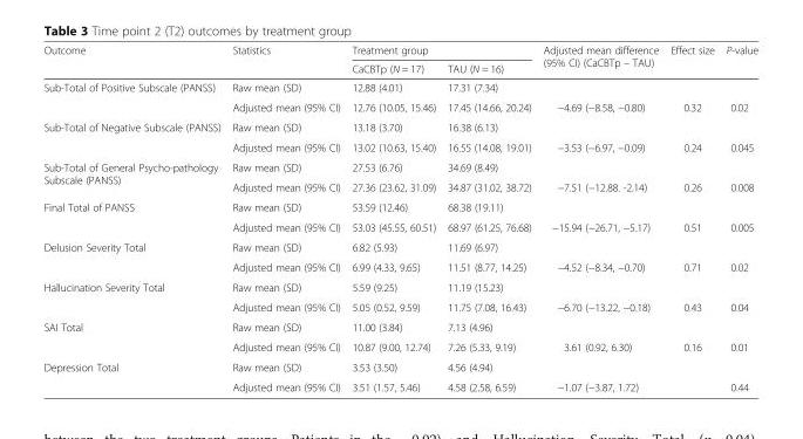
<table><thead><tr><td rowspan="2">Outcome</td><td rowspan="2">Statistics</td><td colspan="2">Treatment group</td><td rowspan="2">Adjusted mean difference (95% CI) (CaCBTp – TAU)</td><td rowspan="2">Effect size</td><td rowspan="2">P-value</td></tr><tr><td>CaCBTp (N = 17)</td><td>TAU (N = 16)</td></tr></thead><tbody><tr><td rowspan="2">Sub-Total of Positive Subscale (PANSS)</td><td>Raw mean (SD)</td><td>12.88 (4.01)</td><td>17.31 (7.34)</td><td></td><td></td><td></td></tr><tr><td>Adjusted mean (95% CI)</td><td>12.76 (10.05, 15.46)</td><td>17.45 (14.66, 20.24)</td><td>−4.69 (−8.58, −0.80)</td><td>0.32</td><td>0.02</td></tr><tr><td rowspan="2">Sub-Total of Negative Subscale (PANSS)</td><td>Raw mean (SD)</td><td>13.18 (3.70)</td><td>16.38 (6.13)</td><td></td><td></td><td></td></tr><tr><td>Adjusted mean (95% CI)</td><td>13.02 (10.63, 15.40)</td><td>16.55 (14.08, 19.01)</td><td>−3.53 (−6.97, −0.09)</td><td>0.24</td><td>0.045</td></tr><tr><td rowspan="2">Sub-Total of General Psycho-pathology Subscale (PANSS)</td><td>Raw mean (SD)</td><td>27.53 (6.76)</td><td>34.69 (8.49)</td><td></td><td></td><td></td></tr><tr><td>Adjusted mean (95% CI)</td><td>27.36 (23.62, 31.09)</td><td>34.87 (31.02, 38.72)</td><td>−7.51 (−12.88. -2.14)</td><td>0.26</td><td>0.008</td></tr><tr><td rowspan="2">Final Total of PANSS</td><td>Raw mean (SD)</td><td>53.59 (12.46)</td><td>68.38 (19.11)</td><td></td><td></td><td></td></tr><tr><td>Adjusted mean (95% CI)</td><td>53.03 (45.55, 60.51)</td><td>68.97 (61.25, 76.68)</td><td>−15.94 (−26.71, −5.17)</td><td>0.51</td><td>0.005</td></tr><tr><td rowspan="2">Delusion Severity Total</td><td>Raw mean (SD)</td><td>6.82 (5.93)</td><td>11.69 (6.97)</td><td></td><td></td><td></td></tr><tr><td>Adjusted mean (95% CI)</td><td>6.99 (4.33, 9.65)</td><td>11.51 (8.77, 14.25)</td><td>−4.52 (−8.34, −0.70)</td><td>0.71</td><td>0.02</td></tr><tr><td rowspan="2">Hallucination Severity Total</td><td>Raw mean (SD)</td><td>5.59 (9.25)</td><td>11.19 (15.23)</td><td></td><td></td><td></td></tr><tr><td>Adjusted mean (95% CI)</td><td>5.05 (0.52, 9.59)</td><td>11.75 (7.08, 16.43)</td><td>−6.70 (−13.22, −0.18)</td><td>0.43</td><td>0.04</td></tr><tr><td rowspan="2">SAI Total</td><td>Raw mean (SD)</td><td>11.00 (3.84)</td><td>7.13 (4.96)</td><td></td><td></td><td></td></tr><tr><td>Adjusted mean (95% CI)</td><td>10.87 (9.00, 12.74)</td><td>7.26 (5.33, 9.19)</td><td>3.61 (0.92, 6.30)</td><td>0.16</td><td>0.01</td></tr><tr><td rowspan="2">Depression Total</td><td>Raw mean (SD)</td><td>3.53 (3.50)</td><td>4.56 (4.94)</td><td></td><td></td><td></td></tr><tr><td>Adjusted mean (95% CI)</td><td>3.51 (1.57, 5.46)</td><td>4.58 (2.58, 6.59)</td><td>−1.07 (−3.87, 1.72)</td><td></td><td>0.44</td></tr></tbody></table>